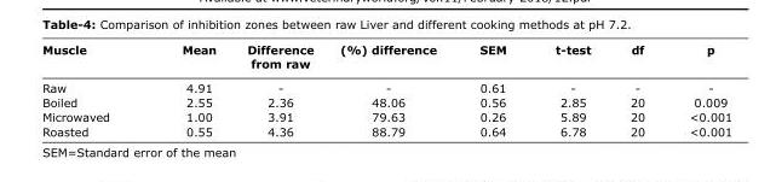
<table><thead><tr><td>Muscle</td><td>Mean</td><td>Difference from raw</td><td>(%) difference</td><td>SEM</td><td>t-test</td><td>df</td><td>p</td></tr></thead><tbody><tr><td>Raw</td><td>4.91</td><td>-</td><td>-</td><td>0.61</td><td>-</td><td>-</td><td>-</td></tr><tr><td>Boiled</td><td>2.55</td><td>2.36</td><td>48.06</td><td>0.56</td><td>2.85</td><td>20</td><td>0.009</td></tr><tr><td>Microwaved</td><td>1.00</td><td>3.91</td><td>79.63</td><td>0.26</td><td>5.89</td><td>20</td><td>&lt;0.001</td></tr><tr><td>Roasted</td><td>0.55</td><td>4.36</td><td>88.79</td><td>0.64</td><td>6.78</td><td>20</td><td>&lt;0.001</td></tr></tbody></table>